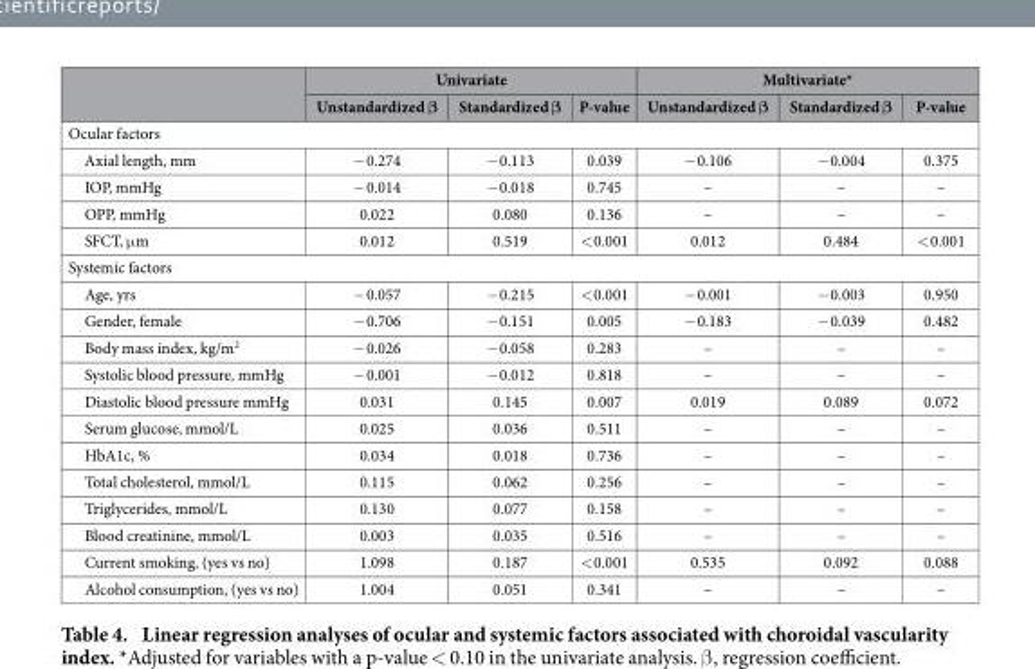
<table><thead><tr><td rowspan="2"></td><td colspan="3">Univariate</td><td colspan="3">Multivariate*</td></tr><tr><td>Unstandardized β</td><td>Standardized β</td><td>P-value</td><td>Unstandardized β</td><td>Standardized β</td><td>P-value</td></tr></thead><tbody><tr><td colspan="7">Ocular factors</td></tr><tr><td>Axial length, mm</td><td>− 0.274</td><td>− 0.113</td><td>0.039</td><td>− 0.106</td><td>− 0.004</td><td>0.375</td></tr><tr><td>IOP, mmHg</td><td>− 0.014</td><td>− 0.018</td><td>0.745</td><td>–</td><td>–</td><td>–</td></tr><tr><td>OPP, mmHg</td><td>0.022</td><td>0.080</td><td>0.136</td><td>–</td><td>–</td><td>–</td></tr><tr><td>SFCT, μ m</td><td>0.012</td><td>0.519</td><td>&lt; 0.001</td><td>0.012</td><td>0.484</td><td>&lt; 0.001</td></tr><tr><td colspan="7">Systemic factors</td></tr><tr><td>Age, yrs</td><td>− 0.057</td><td>− 0.215</td><td>&lt; 0.001</td><td>− 0.001</td><td>− 0.003</td><td>0.950</td></tr><tr><td>Gender, female</td><td>− 0.706</td><td>− 0.151</td><td>0.005</td><td>− 0.183</td><td>− 0.039</td><td>0.482</td></tr><tr><td>Body mass index, kg/m<sup>2</sup></td><td>− 0.026</td><td>− 0.058</td><td>0.283</td><td>–</td><td>–</td><td>–</td></tr><tr><td>Systolic blood pressure, mmHg</td><td>− 0.001</td><td>− 0.012</td><td>0.818</td><td>–</td><td>–</td><td>–</td></tr><tr><td>Diastolic blood pressure mmHg</td><td>0.031</td><td>0.145</td><td>0.007</td><td>0.019</td><td>0.089</td><td>0.072</td></tr><tr><td>Serum glucose, mmol/L</td><td>0.025</td><td>0.036</td><td>0.511</td><td>–</td><td>–</td><td>–</td></tr><tr><td>HbA1c, %</td><td>0.034</td><td>0.018</td><td>0.736</td><td>–</td><td>–</td><td>–</td></tr><tr><td>Total cholesterol, mmol/L</td><td>0.115</td><td>0.062</td><td>0.256</td><td>–</td><td>–</td><td>–</td></tr><tr><td>Triglycerides, mmol/L</td><td>0.130</td><td>0.077</td><td>0.158</td><td>–</td><td>–</td><td>–</td></tr><tr><td>Blood creatinine, mmol/L</td><td>0.003</td><td>0.035</td><td>0.516</td><td>–</td><td>–</td><td>–</td></tr><tr><td>Current smoking, (yes vs no)</td><td>1.098</td><td>0.187</td><td>&lt; 0.001</td><td>0.535</td><td>0.092</td><td>0.088</td></tr><tr><td>Alcohol consumption, (yes vs no)</td><td>1.004</td><td>0.051</td><td>0.341</td><td>–</td><td>–</td><td>–</td></tr></tbody></table>